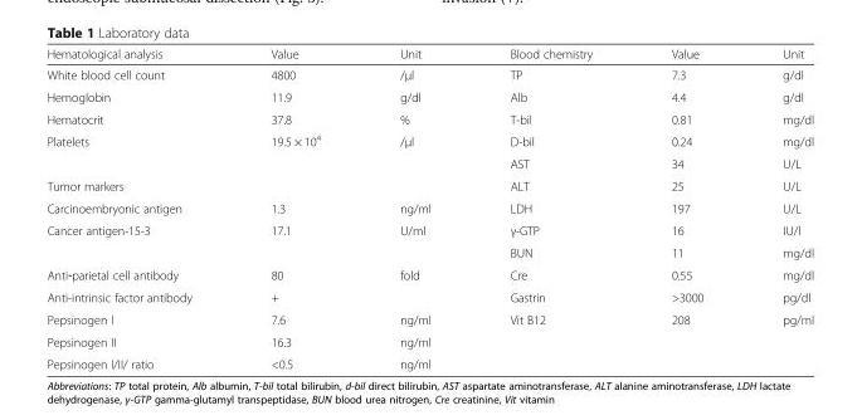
<table><thead><tr><td>Hematological analysis</td><td>Value</td><td>Unit</td><td>Blood chemistry</td><td>Value</td><td>Unit</td></tr></thead><tbody><tr><td>White blood cell count</td><td>4800</td><td>/μl</td><td>TP</td><td>7.3</td><td>g/dl</td></tr><tr><td>Hemoglobin</td><td>11.9</td><td>g/dl</td><td>Alb</td><td>4.4</td><td>g/dl</td></tr><tr><td>Hematocrit</td><td>37.8</td><td>%</td><td>T-bil</td><td>0.81</td><td>mg/dl</td></tr><tr><td rowspan="2">Platelets</td><td>19.5 × 10<sup>4</sup></td><td>/μl</td><td>D-bil</td><td>0.24</td><td>mg/dl</td></tr><tr><td></td><td></td><td>AST</td><td>34</td><td>U/L</td></tr><tr><td>Tumor markers</td><td></td><td></td><td>ALT</td><td>25</td><td>U/L</td></tr><tr><td>Carcinoembryonic antigen</td><td>1.3</td><td>ng/ml</td><td>LDH</td><td>197</td><td>U/L</td></tr><tr><td rowspan="2">Cancer antigen-15-3</td><td>17.1</td><td>U/ml</td><td>γ-GTP</td><td>16</td><td>IU/l</td></tr><tr><td></td><td></td><td>BUN</td><td>11</td><td>mg/dl</td></tr><tr><td>Anti‐parietal cell antibody</td><td>80</td><td>fold</td><td>Cre</td><td>0.55</td><td>mg/dl</td></tr><tr><td>Anti-intrinsic factor antibody</td><td>+</td><td></td><td>Gastrin</td><td>&gt;3000</td><td>pg/dl</td></tr><tr><td>Pepsinogen I</td><td>7.6</td><td>ng/ml</td><td>Vit B12</td><td>208</td><td>pg/ml</td></tr><tr><td>Pepsinogen II</td><td>16.3</td><td>ng/ml</td><td></td><td></td><td></td></tr><tr><td>Pepsinogen I/II/ ratio</td><td>&lt;0.5</td><td>ng/ml</td><td></td><td></td><td></td></tr></tbody></table>